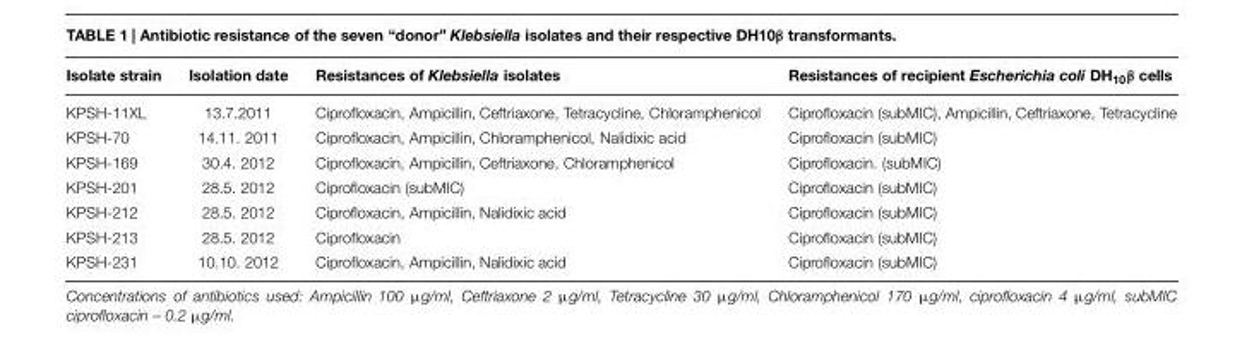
<table><thead><tr><td>Isolate strain</td><td>Isolation date</td><td>Resistances of Klebsiella isolates</td><td>Resistances of recipient Escherichia coli DH<sub>10</sub>β cells</td></tr></thead><tbody><tr><td>KPSH-11XL</td><td>13.7.2011</td><td>Ciprofloxacin, Ampicillin, Ceftriaxone, Tetracycline, Chloramphenicol</td><td>Ciprofloxacin (subMIC), Ampicillin, Ceftriaxone, Tetracycline</td></tr><tr><td>KPSH-70</td><td>14.11. 2011</td><td>Ciprofloxacin, Ampicillin, Chloramphenicol, Nalidixic acid</td><td>Ciprofloxacin (subMIC)</td></tr><tr><td>KPSH-169</td><td>30.4. 2012</td><td>Ciprofloxacin, Ampicillin, Ceftriaxone, Chloramphenicol</td><td>Ciprofloxacin. (subMIC)</td></tr><tr><td>KPSH-201</td><td>28.5. 2012</td><td>Ciprofloxacin (subMIC)</td><td>Ciprofloxacin (subMIC)</td></tr><tr><td>KPSH-212</td><td>28.5. 2012</td><td>Ciprofloxacin, Ampicillin, Nalidixic acid</td><td>Ciprofloxacin (subMIC)</td></tr><tr><td>KPSH-213</td><td>28.5. 2012</td><td>Ciprofloxacin</td><td>Ciprofloxacin (subMIC)</td></tr><tr><td>KPSH-231</td><td>10.10. 2012</td><td>Ciprofloxacin, Ampicillin, Nalidixic acid</td><td>Ciprofloxacin (subMIC)</td></tr></tbody></table>